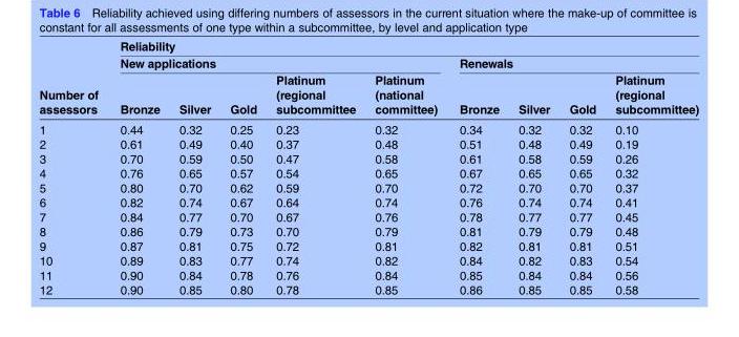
<table><thead><tr><td rowspan="3">Number of assessors</td><td colspan="9">Reliability</td></tr><tr><td colspan="5">New applications</td><td colspan="4">Renewals</td></tr><tr><td>Bronze</td><td>Silver</td><td>Gold</td><td>Platinum (regional subcommittee</td><td>Platinum (national committee)</td><td>Bronze</td><td>Silver</td><td>Gold</td><td>Platinum (regional subcommittee)</td></tr></thead><tbody><tr><td>1</td><td>0.44</td><td>0.32</td><td>0.25</td><td>0.23</td><td>0.32</td><td>0.34</td><td>0.32</td><td>0.32</td><td>0.10</td></tr><tr><td>2</td><td>0.61</td><td>0.49</td><td>0.40</td><td>0.37</td><td>0.48</td><td>0.51</td><td>0.48</td><td>0.49</td><td>0.19</td></tr><tr><td>3</td><td>0.70</td><td>0.59</td><td>0.50</td><td>0.47</td><td>0.58</td><td>0.61</td><td>0.58</td><td>0.59</td><td>0.26</td></tr><tr><td>4</td><td>0.76</td><td>0.65</td><td>0.57</td><td>0.54</td><td>0.65</td><td>0.67</td><td>0.65</td><td>0.65</td><td>0.32</td></tr><tr><td>5</td><td>0.80</td><td>0.70</td><td>0.62</td><td>0.59</td><td>0.70</td><td>0.72</td><td>0.70</td><td>0.70</td><td>0.37</td></tr><tr><td>6</td><td>0.82</td><td>0.74</td><td>0.67</td><td>0.64</td><td>0.74</td><td>0.76</td><td>0.74</td><td>0.74</td><td>0.41</td></tr><tr><td>7</td><td>0.84</td><td>0.77</td><td>0.70</td><td>0.67</td><td>0.76</td><td>0.78</td><td>0.77</td><td>0.77</td><td>0.45</td></tr><tr><td>8</td><td>0.86</td><td>0.79</td><td>0.73</td><td>0.70</td><td>0.79</td><td>0.81</td><td>0.79</td><td>0.79</td><td>0.48</td></tr><tr><td>9</td><td>0.87</td><td>0.81</td><td>0.75</td><td>0.72</td><td>0.81</td><td>0.82</td><td>0.81</td><td>0.81</td><td>0.51</td></tr><tr><td>10</td><td>0.89</td><td>0.83</td><td>0.77</td><td>0.74</td><td>0.82</td><td>0.84</td><td>0.82</td><td>0.83</td><td>0.54</td></tr><tr><td>11</td><td>0.90</td><td>0.84</td><td>0.78</td><td>0.76</td><td>0.84</td><td>0.85</td><td>0.84</td><td>0.84</td><td>0.56</td></tr><tr><td>12</td><td>0.90</td><td>0.85</td><td>0.80</td><td>0.78</td><td>0.85</td><td>0.86</td><td>0.85</td><td>0.85</td><td>0.58</td></tr></tbody></table>